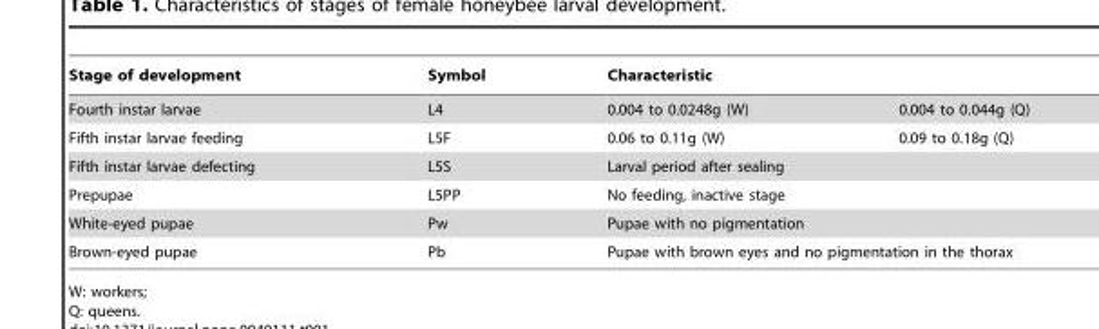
<table><thead><tr><td rowspan="2">Stage of development Fourth instar larvae</td><td rowspan="2">Symbol L4</td><td colspan="2">Characteristic</td></tr><tr><td>0.004 to 0.0248g (W)</td><td>0.004 to 0.044g (Q)</td></tr></thead><tbody><tr><td>Fifth instar larvae feeding</td><td>L5F</td><td>0.06 to 0.11g (W)</td><td>0.09 to 0.18g (Q)</td></tr><tr><td>Fifth instar larvae defecting</td><td>L5S</td><td colspan="2">Larval period after sealing</td></tr><tr><td>Prepupae</td><td>L5PP</td><td colspan="2">No feeding, inactive stage</td></tr><tr><td>White-eyed pupae</td><td>Pw</td><td colspan="2">Pupae with no pigmentation</td></tr><tr><td>Brown-eyed pupae</td><td>Pb</td><td colspan="2">Pupae with brown eyes and no pigmentation in the thorax</td></tr></tbody></table>